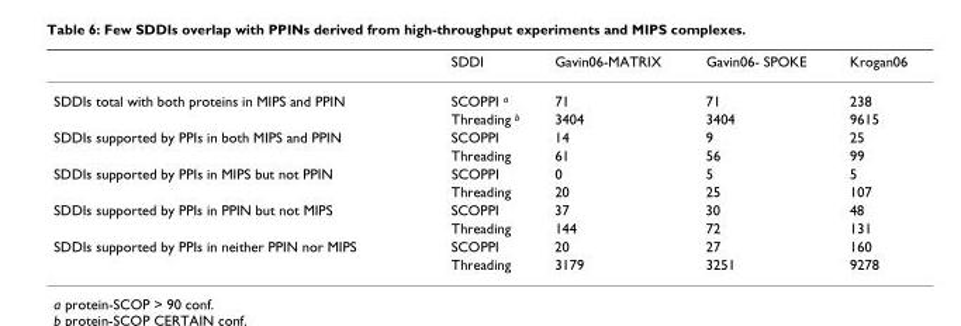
<table><thead><tr><td></td><td>SDDI</td><td>Gavin06-MATRIX</td><td>Gavin06- SPOKE</td><td>Krogan06</td></tr></thead><tbody><tr><td rowspan="2">SDDIs total with both proteins in MIPS and PPIN</td><td>SCOPPI <sup>a</sup></td><td>71</td><td>71</td><td>238</td></tr><tr><td>Threading <sup>b</sup></td><td>3404</td><td>3404</td><td>9615</td></tr><tr><td rowspan="2">SDDIs supported by PPIs in both MIPS and PPIN</td><td>SCOPPI</td><td>14</td><td>9</td><td>25</td></tr><tr><td>Threading</td><td>61</td><td>56</td><td>99</td></tr><tr><td rowspan="2">SDDIs supported by PPIs in MIPS but not PPIN</td><td>SCOPPI</td><td>0</td><td>5</td><td>5</td></tr><tr><td>Threading</td><td>20</td><td>25</td><td>107</td></tr><tr><td rowspan="2">SDDIs supported by PPIs in PPIN but not MIPS</td><td>SCOPPI</td><td>37</td><td>30</td><td>48</td></tr><tr><td>Threading</td><td>144</td><td>72</td><td>131</td></tr><tr><td rowspan="2">SDDIs supported by PPIs in neither PPIN nor MIPS</td><td>SCOPPI</td><td>20</td><td>27</td><td>160</td></tr><tr><td>Threading</td><td>3179</td><td>3251</td><td>9278</td></tr></tbody></table>